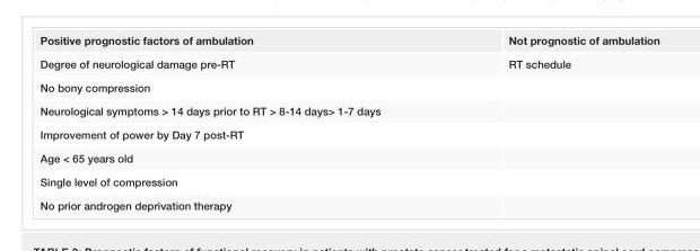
<table><tbody><tr><td>Positive prognostic factors of ambulation</td><td>Not prognostic of ambulation</td></tr><tr><td>Degree of neurological damage pre-RT</td><td>RT schedule</td></tr><tr><td colspan="2">No bony compression</td></tr><tr><td colspan="2">Neurological symptoms &gt; 14 days prior to RT &gt; 8-14 days&gt; 1-7 days</td></tr><tr><td colspan="2">Improvement of power by Day 7 post-RT</td></tr><tr><td colspan="2">Age &lt; 65 years old</td></tr><tr><td colspan="2">Single level of compression</td></tr><tr><td>No prior androgen deprivation therapy</td><td></td></tr></tbody></table>